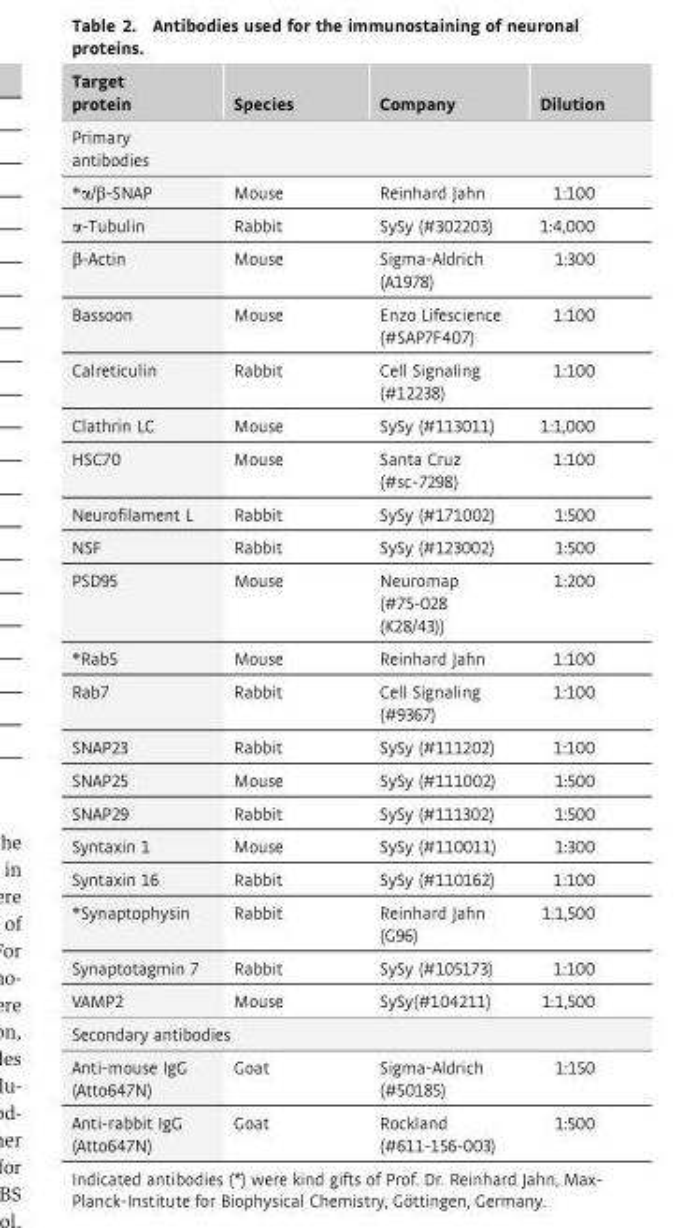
<table><thead><tr><td>Target protein</td><td>Species</td><td>Company</td><td>Dilution</td></tr></thead><tbody><tr><td colspan="4">Primary antibodies</td></tr><tr><td>*α/β-SNAP</td><td>Mouse</td><td>Reinhard Jahn</td><td>1:100</td></tr><tr><td>α-Tubulin</td><td>Rabbit</td><td>SySy (#302203)</td><td>1:4,000</td></tr><tr><td>β-Actin</td><td>Mouse</td><td>Sigma-Aldrich (A1978)</td><td>1:300</td></tr><tr><td>Bassoon</td><td>Mouse</td><td>Enzo Lifescience (#SAP7F407)</td><td>1:100</td></tr><tr><td>Calreticulin</td><td>Rabbit</td><td>Cell Signaling (#12238)</td><td>1:100</td></tr><tr><td>Clathrin LC</td><td>Mouse</td><td>SySy (#113011)</td><td>1:1,000</td></tr><tr><td>HSC70</td><td>Mouse</td><td>Santa Cruz (#sc-7298)</td><td>1:100</td></tr><tr><td>Neurofilament L</td><td>Rabbit</td><td>SySy (#171002)</td><td>1:500</td></tr><tr><td>NSF</td><td>Rabbit</td><td>SySy (#123002)</td><td>1:500</td></tr><tr><td>PSD95</td><td>Mouse</td><td>Neuromap (#75-028 (K28/43))</td><td>1:200</td></tr><tr><td>*Rab5</td><td>Mouse</td><td>Reinhard Jahn</td><td>1:100</td></tr><tr><td>Rab7</td><td>Rabbit</td><td>Cell Signaling (#9367)</td><td>1:100</td></tr><tr><td>SNAP23</td><td>Rabbit</td><td>SySy (#111202)</td><td>1:100</td></tr><tr><td>SNAP25</td><td>Mouse</td><td>SySy (#111002)</td><td>1:500</td></tr><tr><td>SNAP29</td><td>Rabbit</td><td>SySy (#111302)</td><td>1:500</td></tr><tr><td>Syntaxin 1</td><td>Mouse</td><td>SySy (#110011)</td><td>1:300</td></tr><tr><td>Syntaxin 16</td><td>Rabbit</td><td>SySy (#110162)</td><td>1:100</td></tr><tr><td>*Synaptophysin</td><td>Rabbit</td><td>Reinhard Jahn (G96)</td><td>1:1,500</td></tr><tr><td>Synaptotagmin 7</td><td>Rabbit</td><td>SySy (#105173)</td><td>1:100</td></tr><tr><td>VAMP2</td><td>Mouse</td><td>SySy(#104211)</td><td>1:1,500</td></tr><tr><td colspan="4">Secondary antibodies</td></tr><tr><td>Anti-mouse IgG (Atto647N)</td><td>Goat</td><td>Sigma-Aldrich (#50185)</td><td>1:150</td></tr><tr><td>Anti-rabbit IgG (Atto647N)</td><td>Goat</td><td>Rockland (#611-156-003)</td><td>1:500</td></tr></tbody></table>